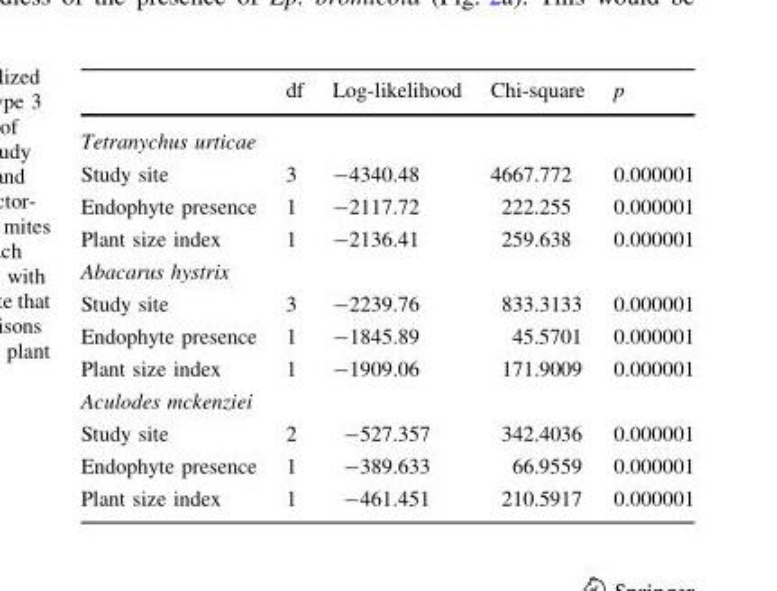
<table><thead><tr><td></td><td>df</td><td>Log-likelihood</td><td>Chi-square</td><td>p</td></tr></thead><tbody><tr><td colspan="5">Tetranychus urticae</td></tr><tr><td>Study site</td><td>3</td><td>-4340.48</td><td>4667.772</td><td>0.000001</td></tr><tr><td>Endophyte presence</td><td>1</td><td>-2117.72</td><td>222.255</td><td>0.000001</td></tr><tr><td>Plant size index</td><td>1</td><td>-2136.41</td><td>259.638</td><td>0.000001</td></tr><tr><td colspan="5">Abacarus hystrix</td></tr><tr><td>Study site</td><td>3</td><td>-2239.76</td><td>833.3133</td><td>0.000001</td></tr><tr><td>Endophyte presence</td><td>1</td><td>-1845.89</td><td>45.5701</td><td>0.000001</td></tr><tr><td>Plant size index</td><td>1</td><td>-1909.06</td><td>171.9009</td><td>0.000001</td></tr><tr><td colspan="5">Aculodes mckenziei</td></tr><tr><td>Study site</td><td>2</td><td>-527.357</td><td>342.4036</td><td>0.000001</td></tr><tr><td>Endophyte presence</td><td>1</td><td>-389.633</td><td>66.9559</td><td>0.000001</td></tr><tr><td>Plant size index</td><td>1</td><td>-461.451</td><td>210.5917</td><td>0.000001</td></tr></tbody></table>